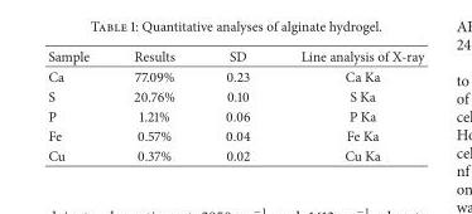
<table><thead><tr><td>Sample</td><td>Results</td><td>SD</td><td>Line analysis of X-ray</td></tr></thead><tbody><tr><td>Ca</td><td>77.09%</td><td>0.23</td><td>Ca Ka</td></tr><tr><td>S</td><td>20.76%</td><td>0.10</td><td>S Ka</td></tr><tr><td>P</td><td>1.21%</td><td>0.06</td><td>P Ka</td></tr><tr><td>Fe</td><td>0.57%</td><td>0.04</td><td>Fe Ka</td></tr><tr><td>Cu</td><td>0.37%</td><td>0.02</td><td>Cu Ka</td></tr></tbody></table>